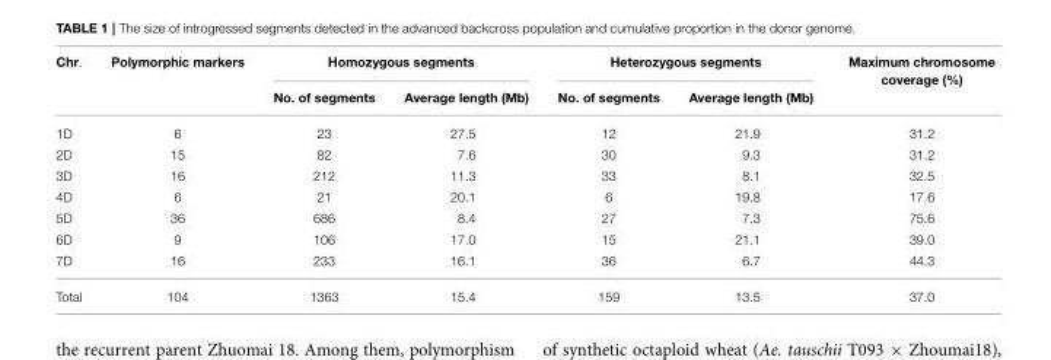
<table><thead><tr><td rowspan="2">Chr.</td><td rowspan="2">Polymorphic markers</td><td colspan="2">Homozygous segments</td><td colspan="2">Heterozygous segments</td><td rowspan="2">Maximum chromosome coverage (%)</td></tr><tr><td>No. of segments</td><td>Average length (Mb)</td><td>No. of segments</td><td>Average length (Mb)</td></tr></thead><tbody><tr><td>1D</td><td>6</td><td>23</td><td>27.5</td><td>12</td><td>21.9</td><td>31.2</td></tr><tr><td>2D</td><td>15</td><td>82</td><td>7.6</td><td>30</td><td>9.3</td><td>31.2</td></tr><tr><td>3D</td><td>16</td><td>212</td><td>11.3</td><td>33</td><td>8.1</td><td>32.5</td></tr><tr><td>4D</td><td>6</td><td>21</td><td>20.1</td><td>6</td><td>19.8</td><td>17.6</td></tr><tr><td>5D</td><td>36</td><td>686</td><td>8.4</td><td>27</td><td>7.3</td><td>75.6</td></tr><tr><td>6D</td><td>9</td><td>106</td><td>17.0</td><td>15</td><td>21.1</td><td>39.0</td></tr><tr><td>7D</td><td>16</td><td>233</td><td>16.1</td><td>36</td><td>6.7</td><td>44.3</td></tr><tr><td>Total</td><td>104</td><td>1363</td><td>15.4</td><td>159</td><td>13.5</td><td>37.0</td></tr></tbody></table>